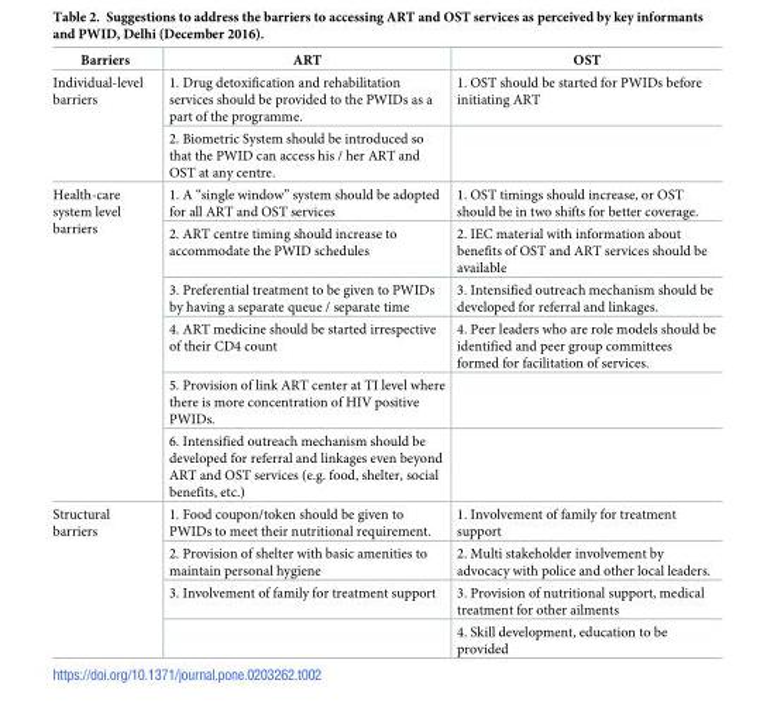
<table><thead><tr><td>Barriers</td><td>ART</td><td>OST</td></tr></thead><tbody><tr><td rowspan="2">Individual-level barriers</td><td>1. Drug detoxification and rehabilitation services should be provided to the PWIDs as a part of the programme.</td><td>1. OST should be started for PWIDs before initiating ART</td></tr><tr><td>2. Biometric System should be introduced so that the PWID can access his / her ART and OST at any centre.</td><td></td></tr><tr><td rowspan="6">Health-care system level barriers</td><td>1. A “single window” system should be adopted for all ART and OST services</td><td>1. OST timings should increase, or OST should be in two shifts for better coverage.</td></tr><tr><td>2. ART centre timing should increase to accommodate the PWID schedules</td><td>2. IEC material with information about benefits of OST and ART services should be available</td></tr><tr><td>3. Preferential treatment to be given to PWIDs by having a separate queue / separate time</td><td>3. Intensified outreach mechanism should be developed for referral and linkages.</td></tr><tr><td>4. ART medicine should be started irrespective of their CD4 count</td><td>4. Peer leaders who are role models should be identified and peer group committees formed for facilitation of services.</td></tr><tr><td>5. Provision of link ART center at TI level where there is more concentration of HIV positive PWIDs.</td><td></td></tr><tr><td>6. Intensified outreach mechanism should be developed for referral and linkages even beyond ART and OST services (e.g. food, shelter, social benefits, etc.)</td><td></td></tr><tr><td rowspan="4">Structural barriers</td><td>1. Food coupon/token should be given to PWIDs to meet their nutritional requirement.</td><td>1. Involvement of family for treatment support</td></tr><tr><td>2. Provision of shelter with basic amenities to maintain personal hygiene</td><td>2. Multi stakeholder involvement by advocacy with police and other local leaders.</td></tr><tr><td>3. Involvement of family for treatment support</td><td>3. Provision of nutritional support, medical treatment for other ailments</td></tr><tr><td></td><td>4. Skill development, education to be provided</td></tr></tbody></table>